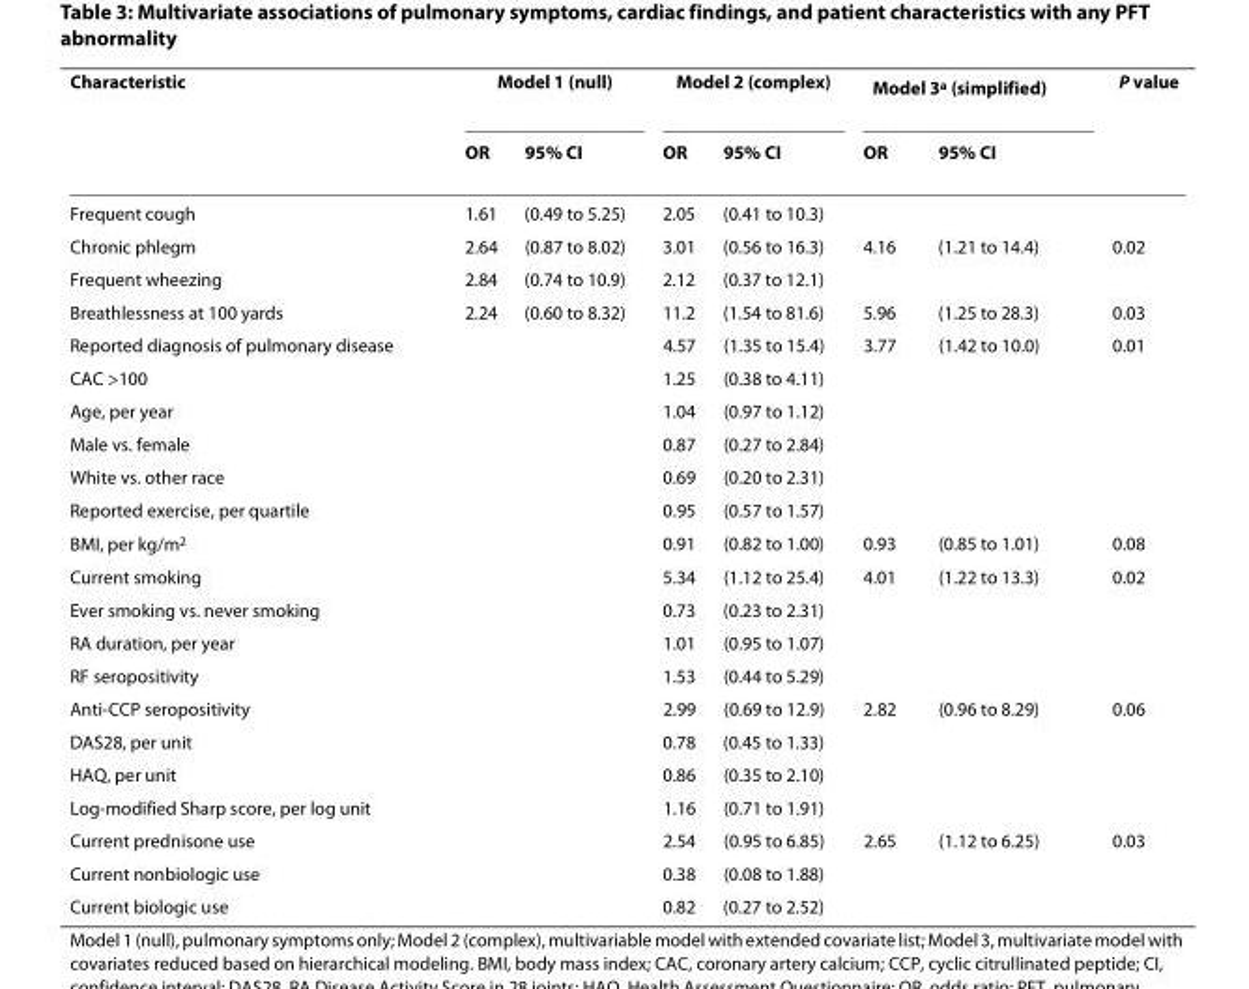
<table><thead><tr><td rowspan="2">Characteristic</td><td colspan="2">Model 1 (null)</td><td colspan="2">Model 2 (complex)</td><td colspan="2">Model 3<sup>a</sup> (simplified)</td><td rowspan="2">P value</td></tr><tr><td>OR</td><td>95% CI</td><td>OR</td><td>95% CI</td><td>OR</td><td>95% CI</td></tr></thead><tbody><tr><td>Frequent cough</td><td>1.61</td><td>(0.49 to 5.25)</td><td>2.05</td><td>(0.41 to 10.3)</td><td></td><td></td><td></td></tr><tr><td>Chronic phlegm</td><td>2.64</td><td>(0.87 to 8.02)</td><td>3.01</td><td>(0.56 to 16.3)</td><td>4.16</td><td>(1.21 to 14.4)</td><td>0.02</td></tr><tr><td>Frequent wheezing</td><td>2.84</td><td>(0.74 to 10.9)</td><td>2.12</td><td>(0.37 to 12.1)</td><td></td><td></td><td></td></tr><tr><td>Breathlessness at 100 yards</td><td>2.24</td><td>(0.60 to 8.32)</td><td>11.2</td><td>(1.54 to 81.6)</td><td>5.96</td><td>(1.25 to 28.3)</td><td>0.03</td></tr><tr><td>Reported diagnosis of pulmonary disease</td><td></td><td></td><td>4.57</td><td>(1.35 to 15.4)</td><td>3.77</td><td>(1.42 to 10.0)</td><td>0.01</td></tr><tr><td>CAC &gt;100</td><td></td><td></td><td>1.25</td><td>(0.38 to 4.11)</td><td></td><td></td><td></td></tr><tr><td>Age, per year</td><td></td><td></td><td>1.04</td><td>(0.97 to 1.12)</td><td></td><td></td><td></td></tr><tr><td>Male vs. female</td><td></td><td></td><td>0.87</td><td>(0.27 to 2.84)</td><td></td><td></td><td></td></tr><tr><td>White vs. other race</td><td></td><td></td><td>0.69</td><td>(0.20 to 2.31)</td><td></td><td></td><td></td></tr><tr><td>Reported exercise, per quartile</td><td></td><td></td><td>0.95</td><td>(0.57 to 1.57)</td><td></td><td></td><td></td></tr><tr><td>BMI, per kg/m<sup>2</sup></td><td></td><td></td><td>0.91</td><td>(0.82 to 1.00)</td><td>0.93</td><td>(0.85 to 1.01)</td><td>0.08</td></tr><tr><td>Current smoking</td><td></td><td></td><td>5.34</td><td>(1.12 to 25.4)</td><td>4.01</td><td>(1.22 to 13.3)</td><td>0.02</td></tr><tr><td>Ever smoking vs. never smoking</td><td></td><td></td><td>0.73</td><td>(0.23 to 2.31)</td><td></td><td></td><td></td></tr><tr><td>RA duration, per year</td><td></td><td></td><td>1.01</td><td>(0.95 to 1.07)</td><td></td><td></td><td></td></tr><tr><td>RF seropositivity</td><td></td><td></td><td>1.53</td><td>(0.44 to 5.29)</td><td></td><td></td><td></td></tr><tr><td>Anti-CCP seropositivity</td><td></td><td></td><td>2.99</td><td>(0.69 to 12.9)</td><td>2.82</td><td>(0.96 to 8.29)</td><td>0.06</td></tr><tr><td>DAS28, per unit</td><td></td><td></td><td>0.78</td><td>(0.45 to 1.33)</td><td></td><td></td><td></td></tr><tr><td>HAQ, per unit</td><td></td><td></td><td>0.86</td><td>(0.35 to 2.10)</td><td></td><td></td><td></td></tr><tr><td>Log-modified Sharp score, per log unit</td><td></td><td></td><td>1.16</td><td>(0.71 to 1.91)</td><td></td><td></td><td></td></tr><tr><td>Current prednisone use</td><td></td><td></td><td>2.54</td><td>(0.95 to 6.85)</td><td>2.65</td><td>(1.12 to 6.25)</td><td>0.03</td></tr><tr><td>Current nonbiologic use</td><td></td><td></td><td>0.38</td><td>(0.08 to 1.88)</td><td></td><td></td><td></td></tr><tr><td>Current biologic use</td><td></td><td></td><td>0.82</td><td>(0.27 to 2.52)</td><td></td><td></td><td></td></tr></tbody></table>